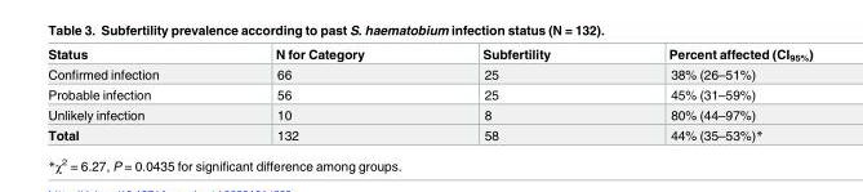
<table><thead><tr><td>Status</td><td>N for Category</td><td>Subfertility</td><td>Percent affected (CI<sub>95%</sub>)</td></tr></thead><tbody><tr><td>Confirmed infection</td><td>66</td><td>25</td><td>38% (26–51%)</td></tr><tr><td>Probable infection</td><td>56</td><td>25</td><td>45% (31–59%)</td></tr><tr><td>Unlikely infection</td><td>10</td><td>8</td><td>80% (44–97%)</td></tr><tr><td>Total</td><td>132</td><td>58</td><td>44% (35–53%)*</td></tr></tbody></table>